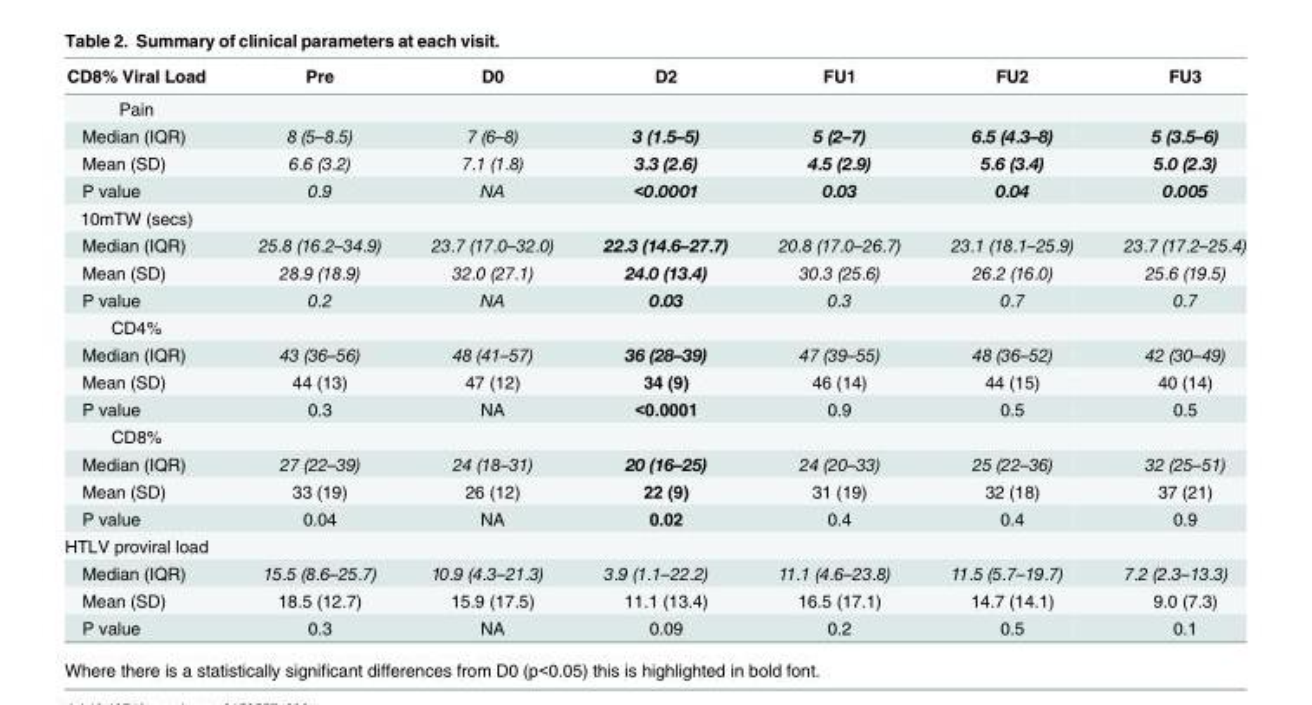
<table><thead><tr><td>CD8% Viral Load</td><td>Pre</td><td>D0</td><td>D2</td><td>FU1</td><td>FU2</td><td>FU3</td></tr></thead><tbody><tr><td colspan="7">Pain</td></tr><tr><td>Median (IQR)</td><td>8 (5–8.5)</td><td>7 (6–8)</td><td>3 (1.5–5)</td><td>5 (2–7)</td><td>6.5 (4.3–8)</td><td>5 (3.5–6)</td></tr><tr><td>Mean (SD)</td><td>6.6 (3.2)</td><td>7.1 (1.8)</td><td>3.3 (2.6)</td><td>4.5 (2.9)</td><td>5.6 (3.4)</td><td>5.0 (2.3)</td></tr><tr><td>P value</td><td>0.9</td><td>NA</td><td>&lt;0.0001</td><td>0.03</td><td>0.04</td><td>0.005</td></tr><tr><td colspan="7">10mTW (secs)</td></tr><tr><td>Median (IQR)</td><td>25.8 (16.2–34.9)</td><td>23.7 (17.0–32.0)</td><td>22.3 (14.6–27.7)</td><td>20.8 (17.0–26.7)</td><td>23.1 (18.1–25.9)</td><td>23.7 (17.2–25.4)</td></tr><tr><td>Mean (SD)</td><td>28.9 (18.9)</td><td>32.0 (27.1)</td><td>24.0 (13.4)</td><td>30.3 (25.6)</td><td>26.2 (16.0)</td><td>25.6 (19.5)</td></tr><tr><td>P value</td><td>0.2</td><td>NA</td><td>0.03</td><td>0.3</td><td>0.7</td><td>0.7</td></tr><tr><td colspan="7">CD4%</td></tr><tr><td>Median (IQR)</td><td>43 (36–56)</td><td>48 (41–57)</td><td>36 (28–39)</td><td>47 (39–55)</td><td>48 (36–52)</td><td>42 (30–49)</td></tr><tr><td>Mean (SD)</td><td>44 (13)</td><td>47 (12)</td><td>34 (9)</td><td>46 (14)</td><td>44 (15)</td><td>40 (14)</td></tr><tr><td>P value</td><td>0.3</td><td>NA</td><td>&lt;0.0001</td><td>0.9</td><td>0.5</td><td>0.5</td></tr><tr><td colspan="7">CD8%</td></tr><tr><td>Median (IQR)</td><td>27 (22–39)</td><td>24 (18–31)</td><td>20 (16–25)</td><td>24 (20–33)</td><td>25 (22–36)</td><td>32 (25–51)</td></tr><tr><td>Mean (SD)</td><td>33 (19)</td><td>26 (12)</td><td>22 (9)</td><td>31 (19)</td><td>32 (18)</td><td>37 (21)</td></tr><tr><td>P value</td><td>0.04</td><td>NA</td><td>0.02</td><td>0.4</td><td>0.4</td><td>0.9</td></tr><tr><td colspan="7">HTLV proviral load</td></tr><tr><td>Median (IQR)</td><td>15.5 (8.6–25.7)</td><td>10.9 (4.3–21.3)</td><td>3.9 (1.1–22.2)</td><td>11.1 (4.6–23.8)</td><td>11.5 (5.7–19.7)</td><td>7.2 (2.3–13.3)</td></tr><tr><td>Mean (SD)</td><td>18.5 (12.7)</td><td>15.9 (17.5)</td><td>11.1 (13.4)</td><td>16.5 (17.1)</td><td>14.7 (14.1)</td><td>9.0 (7.3)</td></tr><tr><td>P value</td><td>0.3</td><td>NA</td><td>0.09</td><td>0.2</td><td>0.5</td><td>0.1</td></tr></tbody></table>